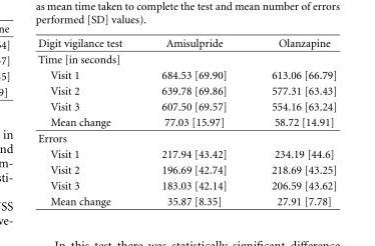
<table><thead><tr><td>Digit vigilance test</td><td>Amisulpride</td><td>Olanzapine</td></tr></thead><tbody><tr><td colspan="3">Time [in seconds]</td></tr><tr><td>Visit 1</td><td>684.53 [69.90]</td><td>613.06 [66.79]</td></tr><tr><td>Visit 2</td><td>639.78 [69.86]</td><td>577.31 [63.43]</td></tr><tr><td>Visit 3</td><td>607.50 [69.57]</td><td>554.16 [63.24]</td></tr><tr><td>Mean change</td><td>77.03 [15.97]</td><td>58.72 [14.91]</td></tr><tr><td colspan="3">Errors</td></tr><tr><td>Visit 1</td><td>217.94 [43.42]</td><td>234.19 [44.6]</td></tr><tr><td>Visit 2</td><td>196.69 [42.74]</td><td>218.69 [43.25]</td></tr><tr><td>Visit 3</td><td>183.03 [42.14]</td><td>206.59 [43.62]</td></tr><tr><td>Mean change</td><td>35.87 [8.35]</td><td>27.91 [7.78]</td></tr></tbody></table>